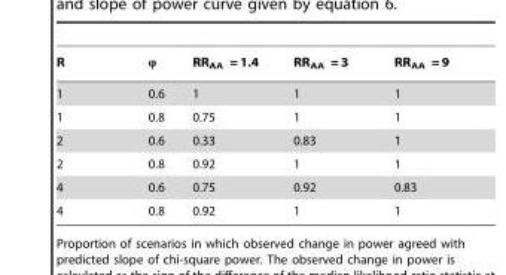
<table><thead><tr><td>R</td><td>φ</td><td>RR<sub>AA</sub> = 1.4</td><td>RR<sub>AA</sub> = 3</td><td>RR<sub>AA</sub> = 9</td></tr></thead><tbody><tr><td>1</td><td>0.6</td><td>1</td><td>1</td><td>1</td></tr><tr><td>1</td><td>0.8</td><td>0.75</td><td>1</td><td>1</td></tr><tr><td>2</td><td>0.6</td><td>0.33</td><td>0.83</td><td>1</td></tr><tr><td>2</td><td>0.8</td><td>0.92</td><td>1</td><td>1</td></tr><tr><td>4</td><td>0.6</td><td>0.75</td><td>0.92</td><td>0.83</td></tr><tr><td>4</td><td>0.8</td><td>0.92</td><td>1</td><td>1</td></tr></tbody></table>